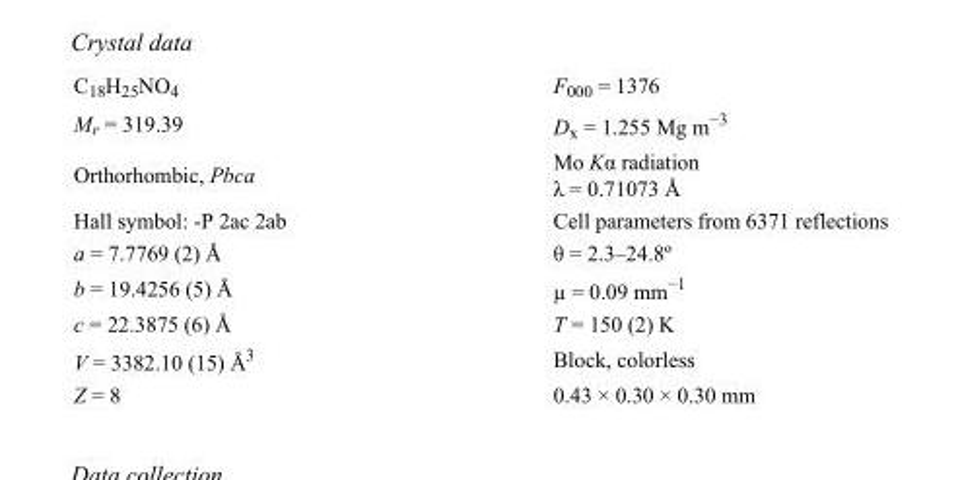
<table><tbody><tr><td>C<sub>18</sub>H<sub>25</sub>NO<sub>4</sub></td><td>F<sub>000</sub> = 1376</td></tr><tr><td>M<sub>r</sub> = 319.39</td><td>D<sub>x</sub> = 1.255 Mg m<sup>−3</sup></td></tr><tr><td>Orthorhombic, Pbca</td><td>Mo Kα radiation λ = 0.71073 Å</td></tr><tr><td>Hall symbol: -P 2ac 2ab</td><td>Cell parameters from 6371 reflections</td></tr><tr><td>a = 7.7769 (2) Å</td><td>θ = 2.3–24.8º</td></tr><tr><td>b = 19.4256 (5) Å</td><td>µ = 0.09 mm<sup>−1</sup></td></tr><tr><td>c = 22.3875 (6) Å</td><td>T = 150 (2) K</td></tr><tr><td>V = 3382.10 (15) Å<sup>3</sup></td><td>Block, colorless</td></tr><tr><td>Z = 8</td><td>0.43 × 0.30 × 0.30 mm</td></tr></tbody></table>